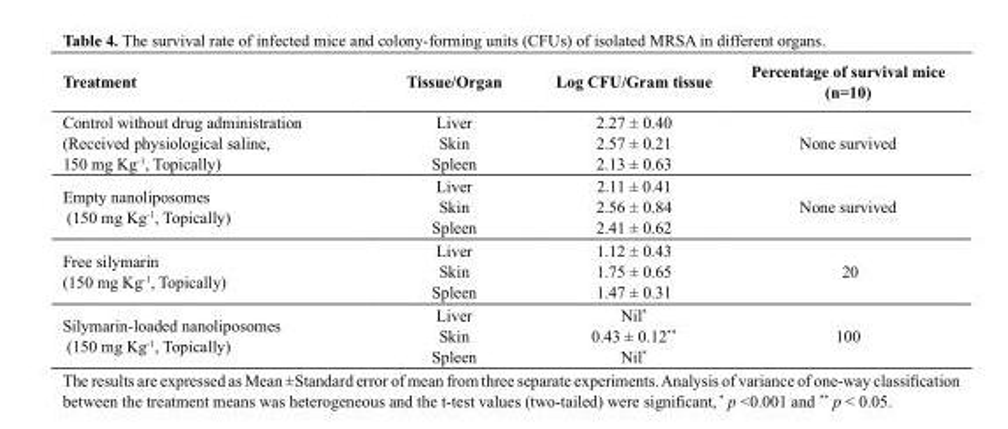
<table><thead><tr><td>Treatment</td><td>Tissue/Organ</td><td>Log CFU/Gram tissue</td><td>Percentage of survival mice (n=10)</td></tr></thead><tbody><tr><td>Control without drug administration (Received physiological saline, 150 mg Kg<sup>-1</sup>, Topically)</td><td>Liver Skin Spleen</td><td>2.27 ± 0.40 2.57 ± 0.21 2.13 ± 0.63</td><td>None survived</td></tr><tr><td>Empty nanoliposomes (150 mg Kg<sup>-1</sup>, Topically)</td><td>Liver Skin Spleen</td><td>2.11 ± 0.41 2.56 ± 0.84 2.41 ± 0.62</td><td>None survived</td></tr><tr><td>Free silymarin (150 mg Kg<sup>-1</sup>, Topically)</td><td>Liver Skin Spleen</td><td>1.12 ± 0.43 1.75 ± 0.65 1.47 ± 0.31</td><td>20</td></tr><tr><td>Silymarin-loaded nanoliposomes (150 mg Kg<sup>-1</sup>, Topically)</td><td>Liver Skin Spleen</td><td>Nil* 0.43 ± 0.12** Nil*</td><td>100</td></tr></tbody></table>